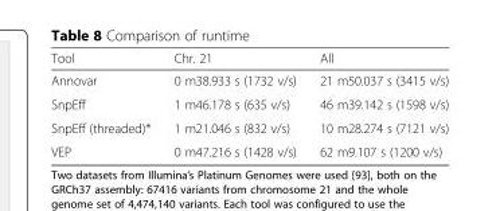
<table><thead><tr><td>Tool</td><td>Chr. 21</td><td>All</td></tr></thead><tbody><tr><td>Annovar</td><td>0 m38.933 s (1732 v/s)</td><td>21 m50.037 s (3415 v/s)</td></tr><tr><td>SnpEff</td><td>1 m46.178 s (635 v/s)</td><td>46 m39.142 s (1598 v/s)</td></tr><tr><td>SnpEff (threaded)*</td><td>1 m21.046 s (832 v/s)</td><td>10 m28.274 s (7121 v/s)</td></tr><tr><td>VEP</td><td>0 m47.216 s (1428 v/s)</td><td>62 m9.107 s (1200 v/s)</td></tr></tbody></table>